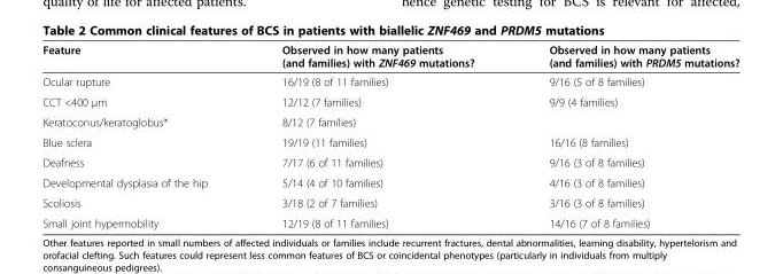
<table><thead><tr><td>Feature</td><td>Observed in how many patients (and families) with ZNF469 mutations?</td><td>Observed in how many patients (and families) with PRDM5 mutations?</td></tr></thead><tbody><tr><td>Ocular rupture</td><td>16/19 (8 of 11 families)</td><td>9/16 (5 of 8 families)</td></tr><tr><td>CCT &lt;400 μm</td><td>12/12 (7 families)</td><td>9/9 (4 families)</td></tr><tr><td>Keratoconus/keratoglobus*</td><td>8/12 (7 families)</td><td></td></tr><tr><td>Blue sclera</td><td>19/19 (11 families)</td><td>16/16 (8 families)</td></tr><tr><td>Deafness</td><td>7/17 (6 of 11 families)</td><td>9/16 (3 of 8 families)</td></tr><tr><td>Developmental dysplasia of the hip</td><td>5/14 (4 of 10 families)</td><td>4/16 (3 of 8 families)</td></tr><tr><td>Scoliosis</td><td>3/18 (2 of 7 families)</td><td>3/16 (3 of 8 families)</td></tr><tr><td>Small joint hypermobility</td><td>12/19 (8 of 11 families)</td><td>14/16 (7 of 8 families)</td></tr></tbody></table>